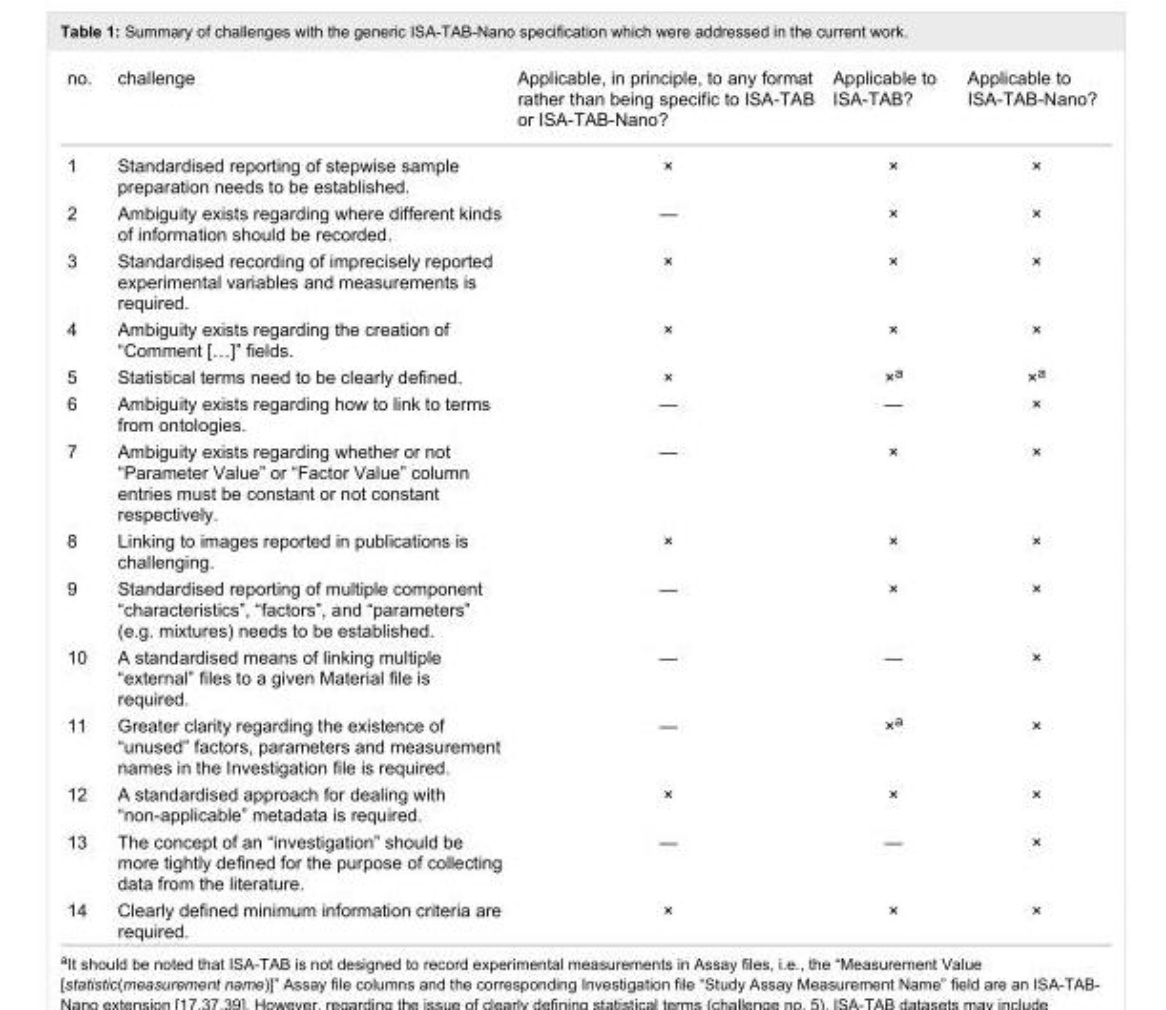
<table><tbody><tr><td>no.</td><td>challenge</td><td>Applicable, in principle, to any format rather than being specific to ISA-TAB or ISA-TAB-Nano?</td><td>Applicable to ISA-TAB?</td><td>Applicable to ISA-TAB-Nano?</td></tr><tr><td>1</td><td>Standardised reporting of stepwise sample preparation needs to be established.</td><td>×</td><td>×</td><td>×</td></tr><tr><td>2</td><td>Ambiguity exists regarding where different kinds of information should be recorded.</td><td>—</td><td>×</td><td>×</td></tr><tr><td>3</td><td>Standardised recording of imprecisely reported experimental variables and measurements is required.</td><td>×</td><td>×</td><td>×</td></tr><tr><td>4</td><td>Ambiguity exists regarding the creation of “Comment […]” fields.</td><td>×</td><td>×</td><td>×</td></tr><tr><td>5</td><td>Statistical terms need to be clearly defined.</td><td>×</td><td>×<sup>a</sup></td><td>×<sup>a</sup></td></tr><tr><td>6</td><td>Ambiguity exists regarding how to link to terms from ontologies.</td><td>—</td><td>—</td><td>×</td></tr><tr><td>7</td><td>Ambiguity exists regarding whether or not “Parameter Value” or “Factor Value” column entries must be constant or not constant respectively.</td><td>—</td><td>×</td><td>×</td></tr><tr><td>8</td><td>Linking to images reported in publications is challenging.</td><td>×</td><td>×</td><td>×</td></tr><tr><td>9</td><td>Standardised reporting of multiple component “characteristics”, “factors”, and “parameters” (e.g. mixtures) needs to be established.</td><td>—</td><td>×</td><td>×</td></tr><tr><td>10</td><td>A standardised means of linking multiple “external” files to a given Material file is required.</td><td>—</td><td>—</td><td>×</td></tr><tr><td>11</td><td>Greater clarity regarding the existence of “unused” factors, parameters and measurement names in the Investigation file is required.</td><td>—</td><td>×<sup>a</sup></td><td>×</td></tr><tr><td>12</td><td>A standardised approach for dealing with “non-applicable” metadata is required.</td><td>×</td><td>×</td><td>×</td></tr><tr><td>13</td><td>The concept of an “investigation” should be more tightly defined for the purpose of collecting data from the literature.</td><td>—</td><td>—</td><td>×</td></tr><tr><td>14</td><td>Clearly defined minimum information criteria are required.</td><td>×</td><td>×</td><td>×</td></tr></tbody></table>